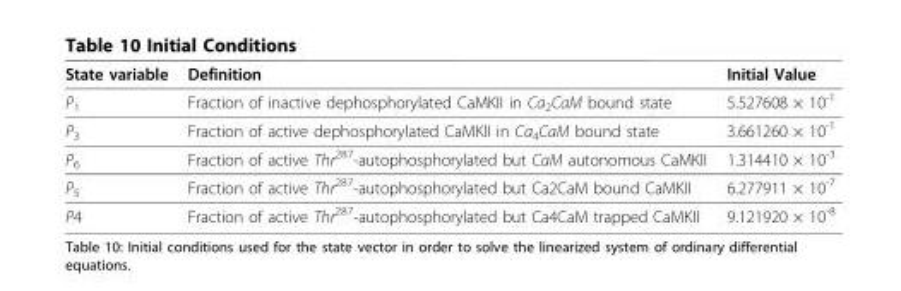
<table><thead><tr><td>State variable</td><td>Definition</td><td>Initial Value</td></tr></thead><tbody><tr><td>P<sub>1</sub></td><td>Fraction of inactive dephosphorylated CaMKII in Ca<sub>2</sub>CaM bound state</td><td>5.527608 × 10<sup>-1</sup></td></tr><tr><td>P<sub>3</sub></td><td>Fraction of active dephosphorylated CaMKII in Ca<sub>4</sub>CaM bound state</td><td>3.661260 × 10<sup>-1</sup></td></tr><tr><td>P<sub>6</sub></td><td>Fraction of active Thr<sup>287</sup>-autophosphorylated but CaM autonomous CaMKII</td><td>1.314410 × 10<sup>-3</sup></td></tr><tr><td>P<sub>5</sub></td><td>Fraction of active Thr<sup>287</sup>-autophosphorylated but Ca2CaM bound CaMKII</td><td>6.277911 × 10<sup>-7</sup></td></tr><tr><td>P4</td><td>Fraction of active Thr<sup>287</sup>-autophosphorylated but Ca4CaM trapped CaMKII</td><td>9.121920 × 10<sup>-8</sup></td></tr></tbody></table>